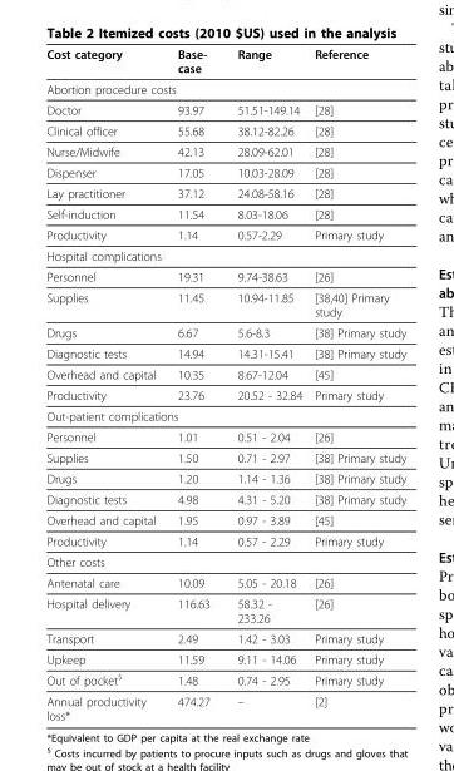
<table><thead><tr><td>Cost category</td><td>Base- case</td><td>Range</td><td>Reference</td></tr></thead><tbody><tr><td colspan="4">Abortion procedure costs</td></tr><tr><td>Doctor</td><td>93.97</td><td>51.51-149.14</td><td>[28]</td></tr><tr><td>Clinical officer</td><td>55.68</td><td>38.12-82.26</td><td>[28]</td></tr><tr><td>Nurse/Midwife</td><td>42.13</td><td>28.09-62.01</td><td>[28]</td></tr><tr><td>Dispenser</td><td>17.05</td><td>10.03-28.09</td><td>[28]</td></tr><tr><td>Lay practitioner</td><td>37.12</td><td>24.08-58.16</td><td>[28]</td></tr><tr><td>Self-induction</td><td>11.54</td><td>8.03-18.06</td><td>[28]</td></tr><tr><td>Productivity</td><td>1.14</td><td>0.57-2.29</td><td>Primary study</td></tr><tr><td colspan="4">Hospital complications</td></tr><tr><td>Personnel</td><td>19.31</td><td>9.74-38.63</td><td>[26]</td></tr><tr><td>Supplies</td><td>11.45</td><td>10.94-11.85</td><td>[38,40] Primary study</td></tr><tr><td>Drugs</td><td>6.67</td><td>5.6-8.3</td><td>[38] Primary study</td></tr><tr><td>Diagnostic tests</td><td>14.94</td><td>14.31-15.41</td><td>[38] Primary study</td></tr><tr><td>Overhead and capital</td><td>10.35</td><td>8.67-12.04</td><td>[45]</td></tr><tr><td>Productivity</td><td>23.76</td><td>20.52 - 32.84</td><td>Primary study</td></tr><tr><td colspan="4">Out-patient complications</td></tr><tr><td>Personnel</td><td>1.01</td><td>0.51 - 2.04</td><td>[26]</td></tr><tr><td>Supplies</td><td>1.50</td><td>0.71 - 2.97</td><td>[38] Primary study</td></tr><tr><td>Drugs</td><td>1.20</td><td>1.14 - 1.36</td><td>[38] Primary study</td></tr><tr><td>Diagnostic tests</td><td>4.98</td><td>4.31 - 5.20</td><td>[38] Primary study</td></tr><tr><td>Overhead and capital</td><td>1.95</td><td>0.97 - 3.89</td><td>[45]</td></tr><tr><td>Productivity</td><td>1.14</td><td>0.57 - 2.29</td><td>Primary study</td></tr><tr><td colspan="4">Other costs</td></tr><tr><td>Antenatal care</td><td>10.09</td><td>5.05 - 20.18</td><td>[26]</td></tr><tr><td>Hospital delivery</td><td>116.63</td><td>58.32 - 233.26</td><td>[26]</td></tr><tr><td>Transport</td><td>2.49</td><td>1.42 - 3.03</td><td>Primary study</td></tr><tr><td>Upkeep</td><td>11.59</td><td>9.11 - 14.06</td><td>Primary study</td></tr><tr><td>Out of pocket<sup>$</sup></td><td>1.48</td><td>0.74 - 2.95</td><td>Primary study</td></tr><tr><td>Annual productivity loss*</td><td>474.27</td><td>–</td><td>[2]</td></tr></tbody></table>